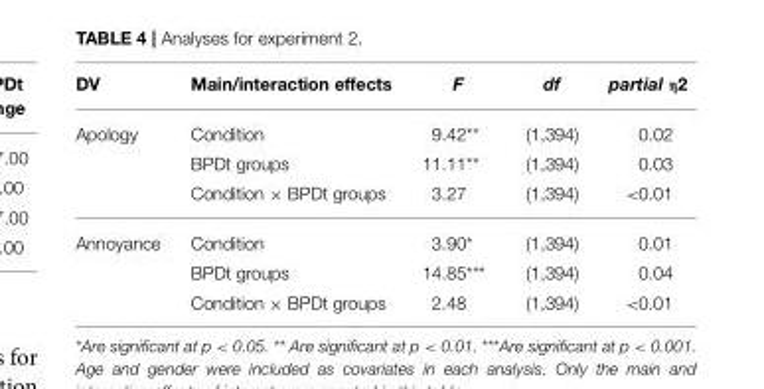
<table><thead><tr><td>DV</td><td>Main/interaction effects</td><td>F</td><td>df</td><td>partial η2</td></tr></thead><tbody><tr><td rowspan="3">Apology</td><td>Condition</td><td>9.42**</td><td>(1,394)</td><td>0.02</td></tr><tr><td>BPDt groups</td><td>11.11**</td><td>(1,394)</td><td>0.03</td></tr><tr><td>Condition × BPDt groups</td><td>3.27</td><td>(1,394)</td><td>&lt;0.01</td></tr><tr><td rowspan="3">Annoyance</td><td>Condition</td><td>3.90*</td><td>(1,394)</td><td>0.01</td></tr><tr><td>BPDt groups</td><td>14.85***</td><td>(1,394)</td><td>0.04</td></tr><tr><td>Condition × BPDt groups</td><td>2.48</td><td>(1,394)</td><td>&lt;0.01</td></tr></tbody></table>